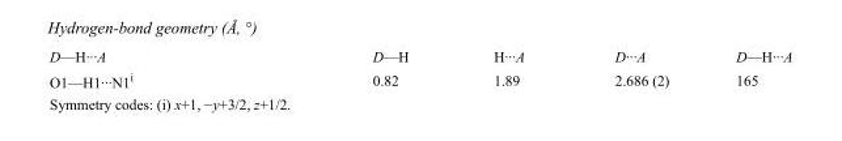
<table><tbody><tr><td>D—H···A</td><td>D—H</td><td>H···A</td><td>D···A</td><td>D—H···A</td></tr><tr><td>O1—H1···N1<sup>i</sup></td><td>0.82</td><td>1.89</td><td>2.686 (2)</td><td>165</td></tr></tbody></table>